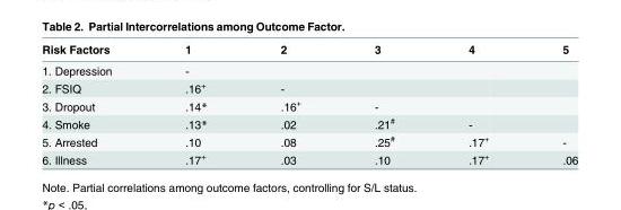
<table><thead><tr><td>Risk Factors</td><td>1</td><td>2</td><td>3</td><td>4</td><td>5</td></tr></thead><tbody><tr><td>1. Depression</td><td>-</td><td></td><td></td><td></td><td></td></tr><tr><td>2. FSIQ</td><td>.16<sup>+</sup></td><td>-</td><td></td><td></td><td></td></tr><tr><td>3. Dropout</td><td>.14*</td><td>.16<sup>+</sup></td><td>-</td><td></td><td></td></tr><tr><td>4. Smoke</td><td>.13*</td><td>.02</td><td>.21<sup>#</sup></td><td>-</td><td></td></tr><tr><td>5. Arrested</td><td>.10</td><td>.08</td><td>.25<sup>#</sup></td><td>.17<sup>+</sup></td><td>-</td></tr><tr><td>6. Illness</td><td>.17<sup>+</sup></td><td>.03</td><td>.10</td><td>.17<sup>+</sup></td><td>.06</td></tr></tbody></table>